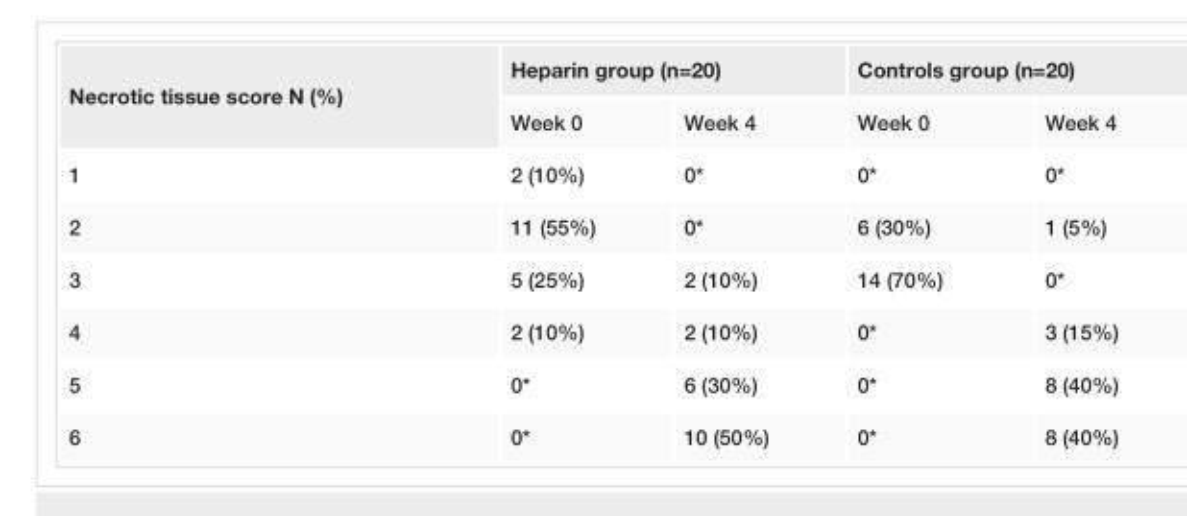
<table><tbody><tr><td rowspan="2">Necrotic tissue score N (%)</td><td colspan="2">Heparin group (n=20)</td><td colspan="2">Controls group (n=20)</td></tr><tr><td>Week 0</td><td>Week 4</td><td>Week 0</td><td>Week 4</td></tr><tr><td>1</td><td>2 (10%)</td><td>0*</td><td>0*</td><td>0*</td></tr><tr><td>2</td><td>11 (55%)</td><td>0*</td><td>6 (30%)</td><td>1 (5%)</td></tr><tr><td>3</td><td>5 (25%)</td><td>2 (10%)</td><td>14 (70%)</td><td>0*</td></tr><tr><td>4</td><td>2 (10%)</td><td>2 (10%)</td><td>0*</td><td>3 (15%)</td></tr><tr><td>5</td><td>0*</td><td>6 (30%)</td><td>0*</td><td>8 (40%)</td></tr><tr><td>6</td><td>0*</td><td>10 (50%)</td><td>0*</td><td>8 (40%)</td></tr></tbody></table>